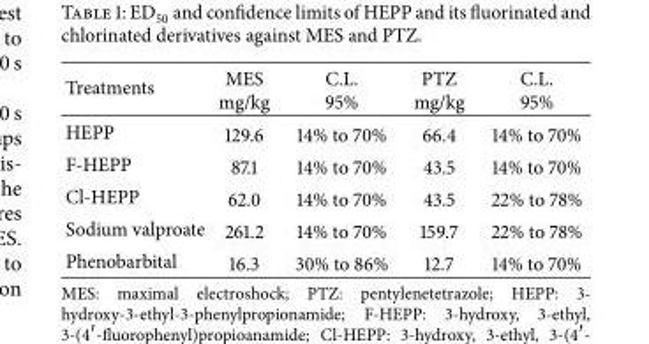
<table><thead><tr><td>Treatments</td><td>MES mg/kg</td><td>C.L. 95%</td><td>PTZ mg/kg</td><td>C.L. 95%</td></tr></thead><tbody><tr><td>HEPP</td><td>129.6</td><td>14% to 70%</td><td>66.4</td><td>14% to 70%</td></tr><tr><td>F-HEPP</td><td>87.1</td><td>14% to 70%</td><td>43.5</td><td>14% to 70%</td></tr><tr><td>Cl-HEPP</td><td>62.0</td><td>14% to 70%</td><td>43.5</td><td>22% to 78%</td></tr><tr><td>Sodium valproate</td><td>261.2</td><td>14% to 70%</td><td>159.7</td><td>22% to 78%</td></tr><tr><td>Phenobarbital</td><td>16.3</td><td>30% to 86%</td><td>12.7</td><td>14% to 70%</td></tr></tbody></table>